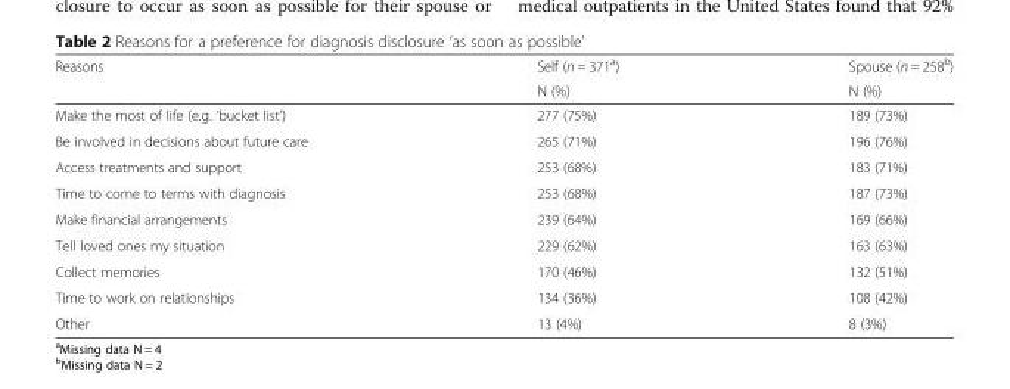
<table><thead><tr><td rowspan="2">Reasons</td><td rowspan="2">Self (n = 371<sup>a</sup>) N (%)</td><td rowspan="2">Spouse (n = 258<sup>b</sup>) N (%)</td></tr><tr></tr></thead><tbody><tr><td>Make the most of life (e.g. ‘bucket list’)</td><td>277 (75%)</td><td>189 (73%)</td></tr><tr><td>Be involved in decisions about future care</td><td>265 (71%)</td><td>196 (76%)</td></tr><tr><td>Access treatments and support</td><td>253 (68%)</td><td>183 (71%)</td></tr><tr><td>Time to come to terms with diagnosis</td><td>253 (68%)</td><td>187 (73%)</td></tr><tr><td>Make financial arrangements</td><td>239 (64%)</td><td>169 (66%)</td></tr><tr><td>Tell loved ones my situation</td><td>229 (62%)</td><td>163 (63%)</td></tr><tr><td>Collect memories</td><td>170 (46%)</td><td>132 (51%)</td></tr><tr><td>Time to work on relationships</td><td>134 (36%)</td><td>108 (42%)</td></tr><tr><td>Other</td><td>13 (4%)</td><td>8 (3%)</td></tr></tbody></table>